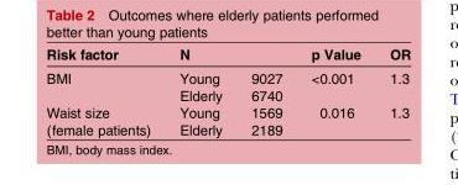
<table><thead><tr><td>Risk factor</td><td>N</td><td></td><td>p Value</td><td>OR</td></tr></thead><tbody><tr><td rowspan="2">BMI</td><td>Young</td><td>9027</td><td rowspan="2">&lt;0.001</td><td rowspan="2">1.3</td></tr><tr><td>Elderly</td><td>6740</td></tr><tr><td rowspan="2">Waist size (female patients)</td><td>Young</td><td>1569</td><td rowspan="2">0.016</td><td rowspan="2">1.3</td></tr><tr><td>Elderly</td><td>2189</td></tr></tbody></table>